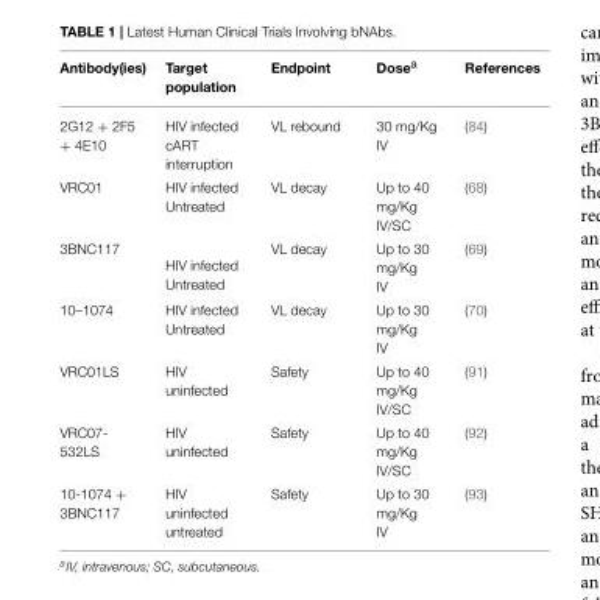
<table><thead><tr><td>Antibody(ies)</td><td>Target population</td><td>Endpoint</td><td>Dose<sup>a</sup></td><td>References</td></tr></thead><tbody><tr><td>2G12 + 2F5 + 4E10</td><td>HIV infected cART interruption</td><td>VL rebound</td><td>30 mg/Kg IV</td><td>(84)</td></tr><tr><td>VRC01</td><td>HIV infected Untreated</td><td>VL decay</td><td>Up to 40 mg/Kg IV/SC</td><td>(68)</td></tr><tr><td>3BNC117</td><td>HIV infected Untreated</td><td>VL decay</td><td>Up to 30 mg/Kg IV</td><td>(69)</td></tr><tr><td>10–1074</td><td>HIV infected Untreated</td><td>VL decay</td><td>Up to 30 mg/Kg IV</td><td>(70)</td></tr><tr><td>VRC01LS</td><td>HIV uninfected</td><td>Safety</td><td>Up to 40 mg/Kg IV/SC</td><td>(91)</td></tr><tr><td>VRC07- 532LS</td><td>HIV uninfected</td><td>Safety</td><td>Up to 40 mg/Kg IV/SC</td><td>(92)</td></tr><tr><td>10-1074 + 3BNC117</td><td>HIV uninfected untreated</td><td>Safety</td><td>Up to 30 mg/Kg IV</td><td>(93)</td></tr></tbody></table>